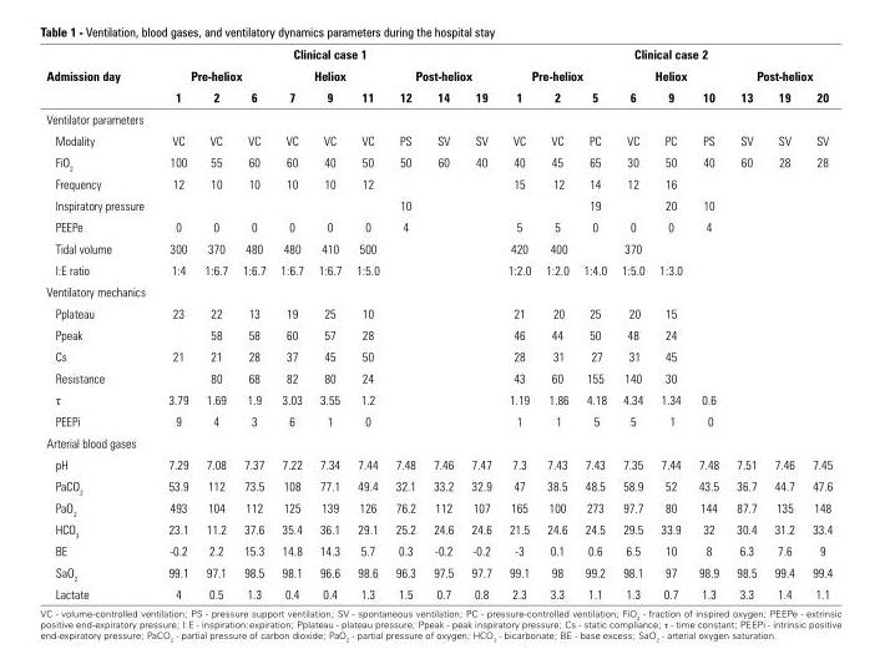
<table><thead><tr><td rowspan="3">Admission day</td><td colspan="9">Clinical case 1</td><td colspan="9">Clinical case 2</td></tr><tr><td colspan="3">Pre-heliox</td><td colspan="3">Heliox</td><td colspan="3">Post-heliox</td><td colspan="3">Pre-heliox</td><td colspan="3">Heliox</td><td colspan="3">Post-heliox</td></tr><tr><td>1</td><td>2</td><td>6</td><td>7</td><td>9</td><td>11</td><td>12</td><td>14</td><td>19</td><td>1</td><td>2</td><td>5</td><td>6</td><td>9</td><td>10</td><td>13</td><td>19</td><td>20</td></tr></thead><tbody><tr><td colspan="19">Ventilator parameters</td></tr><tr><td>Modality</td><td>VC</td><td>VC</td><td>VC</td><td>VC</td><td>VC</td><td>VC</td><td>PS</td><td>SV</td><td>SV</td><td>VC</td><td>VC</td><td>PC</td><td>VC</td><td>PC</td><td>PS</td><td>SV</td><td>SV</td><td>SV</td></tr><tr><td>FiO<sub>2</sub></td><td>100</td><td>55</td><td>60</td><td>60</td><td>40</td><td>50</td><td>50</td><td>60</td><td>40</td><td>40</td><td>45</td><td>65</td><td>30</td><td>50</td><td>40</td><td>60</td><td>28</td><td>28</td></tr><tr><td>Frequency</td><td>12</td><td>10</td><td>10</td><td>10</td><td>10</td><td>12</td><td></td><td></td><td></td><td>15</td><td>12</td><td>14</td><td>12</td><td>16</td><td></td><td></td><td></td><td></td></tr><tr><td>Inspiratory pressure</td><td></td><td></td><td></td><td></td><td></td><td></td><td>10</td><td></td><td></td><td></td><td></td><td>19</td><td></td><td>20</td><td>10</td><td></td><td></td><td></td></tr><tr><td>PEEPe</td><td>0</td><td>0</td><td>0</td><td>0</td><td>0</td><td>0</td><td>4</td><td></td><td></td><td>5</td><td>5</td><td>0</td><td>0</td><td>0</td><td>4</td><td></td><td></td><td></td></tr><tr><td>Tidal volume</td><td>300</td><td>370</td><td>480</td><td>480</td><td>410</td><td>500</td><td></td><td></td><td></td><td>420</td><td>400</td><td></td><td>370</td><td></td><td></td><td></td><td></td><td></td></tr><tr><td>I:E ratio</td><td>1:4</td><td>1:6.7</td><td>1:6.7</td><td>1:6.7</td><td>1:6.7</td><td>1:5.0</td><td></td><td></td><td></td><td>1:2.0</td><td>1:2.0</td><td>1:4.0</td><td>1:5.0</td><td>1:3.0</td><td></td><td></td><td></td><td></td></tr><tr><td colspan="19">Ventilatory mechanics</td></tr><tr><td>Pplateau</td><td>23</td><td>22</td><td>13</td><td>19</td><td>25</td><td>10</td><td></td><td></td><td></td><td>21</td><td>20</td><td>25</td><td>20</td><td>15</td><td></td><td></td><td></td><td></td></tr><tr><td>Ppeak</td><td></td><td>58</td><td>58</td><td>60</td><td>57</td><td>28</td><td></td><td></td><td></td><td>46</td><td>44</td><td>50</td><td>48</td><td>24</td><td></td><td></td><td></td><td></td></tr><tr><td>Cs</td><td>21</td><td>21</td><td>28</td><td>37</td><td>45</td><td>50</td><td></td><td></td><td></td><td>28</td><td>31</td><td>27</td><td>31</td><td>45</td><td></td><td></td><td></td><td></td></tr><tr><td>Resistance</td><td></td><td>80</td><td>68</td><td>82</td><td>80</td><td>24</td><td></td><td></td><td></td><td>43</td><td>60</td><td>155</td><td>140</td><td>30</td><td></td><td></td><td></td><td></td></tr><tr><td>τ</td><td>3.79</td><td>1.69</td><td>1.9</td><td>3.03</td><td>3.55</td><td>1.2</td><td></td><td></td><td></td><td>1.19</td><td>1.86</td><td>4.18</td><td>4.34</td><td>1.34</td><td>0.6</td><td></td><td></td><td></td></tr><tr><td>PEEPi</td><td>9</td><td>4</td><td>3</td><td>6</td><td>1</td><td>0</td><td></td><td></td><td></td><td>1</td><td>1</td><td>5</td><td>5</td><td>1</td><td>0</td><td></td><td></td><td></td></tr><tr><td colspan="19">Arterial blood gases</td></tr><tr><td>pH</td><td>7.29</td><td>7.08</td><td>7.37</td><td>7.22</td><td>7.34</td><td>7.44</td><td>7.48</td><td>7.46</td><td>7.47</td><td>7.3</td><td>7.43</td><td>7.43</td><td>7.35</td><td>7.44</td><td>7.48</td><td>7.51</td><td>7.46</td><td>7.45</td></tr><tr><td>PaCO<sub>2</sub></td><td>53.9</td><td>112</td><td>73.5</td><td>108</td><td>77.1</td><td>49.4</td><td>32.1</td><td>33.2</td><td>32.9</td><td>47</td><td>38.5</td><td>48.5</td><td>58.9</td><td>52</td><td>43.5</td><td>36.7</td><td>44.7</td><td>47.6</td></tr><tr><td>PaO<sub>2</sub></td><td>493</td><td>104</td><td>112</td><td>125</td><td>139</td><td>126</td><td>76.2</td><td>112</td><td>107</td><td>165</td><td>100</td><td>273</td><td>97.7</td><td>80</td><td>144</td><td>87.7</td><td>135</td><td>148</td></tr><tr><td>HCO<sub>3</sub></td><td>23.1</td><td>11.2</td><td>37.6</td><td>35.4</td><td>36.1</td><td>29.1</td><td>25.2</td><td>24.6</td><td>24.6</td><td>21.5</td><td>24.6</td><td>24.5</td><td>29.5</td><td>33.9</td><td>32</td><td>30.4</td><td>31.2</td><td>33.4</td></tr><tr><td>BE</td><td>-0.2</td><td>2.2</td><td>15.3</td><td>14.8</td><td>14.3</td><td>5.7</td><td>0.3</td><td>-0.2</td><td>-0.2</td><td>-3</td><td>0.1</td><td>0.6</td><td>6.5</td><td>10</td><td>8</td><td>6.3</td><td>7.6</td><td>9</td></tr><tr><td>SaO<sub>2</sub></td><td>99.1</td><td>97.1</td><td>98.5</td><td>98.1</td><td>96.6</td><td>98.6</td><td>96.3</td><td>97.5</td><td>97.7</td><td>99.1</td><td>98</td><td>99.2</td><td>98.1</td><td>97</td><td>98.9</td><td>98.5</td><td>99.4</td><td>99.4</td></tr><tr><td>Lactate</td><td>4</td><td>0.5</td><td>1.3</td><td>0.4</td><td>0.4</td><td>1.3</td><td>1.5</td><td>0.7</td><td>0.8</td><td>2.3</td><td>3.3</td><td>1.1</td><td>1.3</td><td>0.7</td><td>1.3</td><td>3.3</td><td>1.4</td><td>1.1</td></tr></tbody></table>